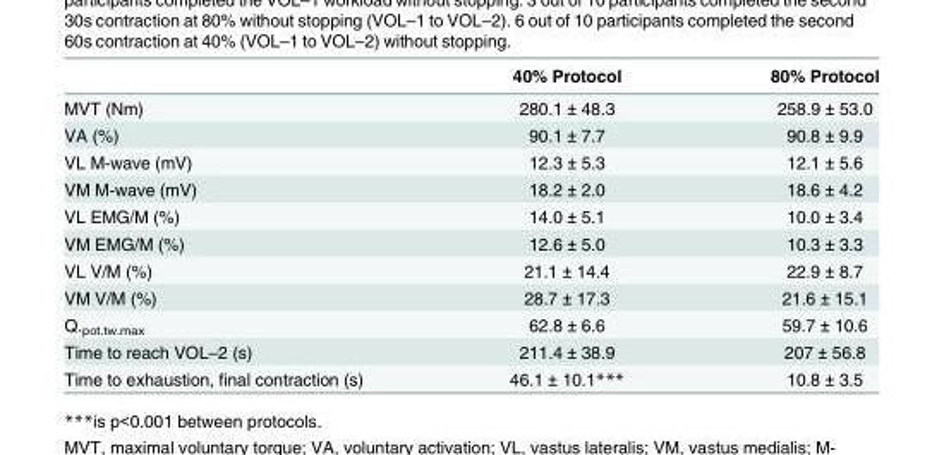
<table><thead><tr><td></td><td>40% Protocol</td><td>80% Protocol</td></tr></thead><tbody><tr><td>MVT (Nm)</td><td>280.1 ± 48.3</td><td>258.9 ± 53.0</td></tr><tr><td>VA (%)</td><td>90.1 ± 7.7</td><td>90.8 ± 9.9</td></tr><tr><td>VL M-wave (mV)</td><td>12.3 ± 5.3</td><td>12.1 ± 5.6</td></tr><tr><td>VM M-wave (mV)</td><td>18.2 ± 2.0</td><td>18.6 ± 4.2</td></tr><tr><td>VL EMG/M (%)</td><td>14.0 ± 5.1</td><td>10.0 ± 3.4</td></tr><tr><td>VM EMG/M (%)</td><td>12.6 ± 5.0</td><td>10.3 ± 3.3</td></tr><tr><td>VL V/M (%)</td><td>21.1 ± 14.4</td><td>22.9 ± 8.7</td></tr><tr><td>VM V/M (%)</td><td>28.7 ± 17.3</td><td>21.6 ± 15.1</td></tr><tr><td>Q.<sub>pot.tw.max</sub></td><td>62.8 ± 6.6</td><td>59.7 ± 10.6</td></tr><tr><td>Time to reach VOL–2 (s)</td><td>211.4 ± 38.9</td><td>207 ± 56.8</td></tr><tr><td>Time to exhaustion, final contraction (s)</td><td>46.1 ± 10.1***</td><td>10.8 ± 3.5</td></tr></tbody></table>